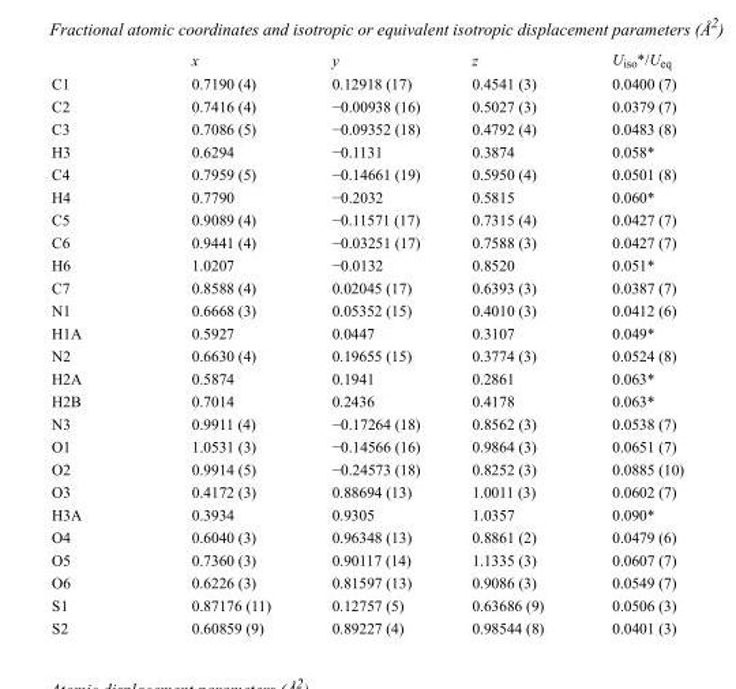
<table><thead><tr><td></td><td>x</td><td>y</td><td>z</td><td>U<sub>iso</sub>*/U<sub>eq</sub></td></tr></thead><tbody><tr><td>C1</td><td>0.7190 (4)</td><td>0.12918 (17)</td><td>0.4541 (3)</td><td>0.0400 (7)</td></tr><tr><td>C2</td><td>0.7416 (4)</td><td>−0.00938 (16)</td><td>0.5027 (3)</td><td>0.0379 (7)</td></tr><tr><td>C3</td><td>0.7086 (5)</td><td>−0.09352 (18)</td><td>0.4792 (4)</td><td>0.0483 (8)</td></tr><tr><td>H3</td><td>0.6294</td><td>−0.1131</td><td>0.3874</td><td>0.058*</td></tr><tr><td>C4</td><td>0.7959 (5)</td><td>−0.14661 (19)</td><td>0.5950 (4)</td><td>0.0501 (8)</td></tr><tr><td>H4</td><td>0.7790</td><td>−0.2032</td><td>0.5815</td><td>0.060*</td></tr><tr><td>C5</td><td>0.9089 (4)</td><td>−0.11571 (17)</td><td>0.7315 (4)</td><td>0.0427 (7)</td></tr><tr><td>C6</td><td>0.9441 (4)</td><td>−0.03251 (17)</td><td>0.7588 (3)</td><td>0.0427 (7)</td></tr><tr><td>H6</td><td>1.0207</td><td>−0.0132</td><td>0.8520</td><td>0.051*</td></tr><tr><td>C7</td><td>0.8588 (4)</td><td>0.02045 (17)</td><td>0.6393 (3)</td><td>0.0387 (7)</td></tr><tr><td>N1</td><td>0.6668 (3)</td><td>0.05352 (15)</td><td>0.4010 (3)</td><td>0.0412 (6)</td></tr><tr><td>H1A</td><td>0.5927</td><td>0.0447</td><td>0.3107</td><td>0.049*</td></tr><tr><td>N2</td><td>0.6630 (4)</td><td>0.19655 (15)</td><td>0.3774 (3)</td><td>0.0524 (8)</td></tr><tr><td>H2A</td><td>0.5874</td><td>0.1941</td><td>0.2861</td><td>0.063*</td></tr><tr><td>H2B</td><td>0.7014</td><td>0.2436</td><td>0.4178</td><td>0.063*</td></tr><tr><td>N3</td><td>0.9911 (4)</td><td>−0.17264 (18)</td><td>0.8562 (3)</td><td>0.0538 (7)</td></tr><tr><td>O1</td><td>1.0531 (3)</td><td>−0.14566 (16)</td><td>0.9864 (3)</td><td>0.0651 (7)</td></tr><tr><td>O2</td><td>0.9914 (5)</td><td>−0.24573 (18)</td><td>0.8252 (3)</td><td>0.0885 (10)</td></tr><tr><td>O3</td><td>0.4172 (3)</td><td>0.88694 (13)</td><td>1.0011 (3)</td><td>0.0602 (7)</td></tr><tr><td>H3A</td><td>0.3934</td><td>0.9305</td><td>1.0357</td><td>0.090*</td></tr><tr><td>O4</td><td>0.6040 (3)</td><td>0.96348 (13)</td><td>0.8861 (2)</td><td>0.0479 (6)</td></tr><tr><td>O5</td><td>0.7360 (3)</td><td>0.90117 (14)</td><td>1.1335 (3)</td><td>0.0607 (7)</td></tr><tr><td>O6</td><td>0.6226 (3)</td><td>0.81597 (13)</td><td>0.9086 (3)</td><td>0.0549 (7)</td></tr><tr><td>S1</td><td>0.87176 (11)</td><td>0.12757 (5)</td><td>0.63686 (9)</td><td>0.0506 (3)</td></tr><tr><td>S2</td><td>0.60859 (9)</td><td>0.89227 (4)</td><td>0.98544 (8)</td><td>0.0401 (3)</td></tr></tbody></table>